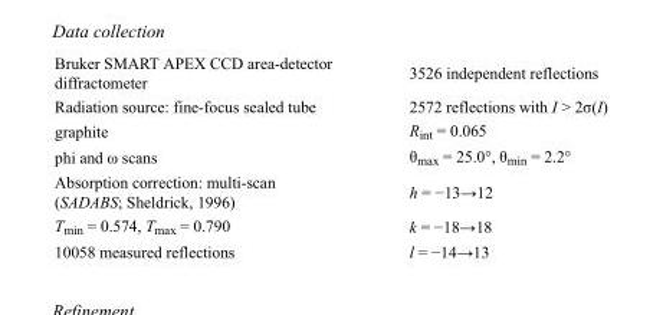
<table><tbody><tr><td>Bruker SMART APEX CCD area-detector diffractometer</td><td>3526 independent reflections</td></tr><tr><td>Radiation source: fine-focus sealed tube</td><td>2572 reflections with I &gt; 2σ(I)</td></tr><tr><td>graphite</td><td>R<sub>int</sub> = 0.065</td></tr><tr><td>phi and ω scans</td><td>θ<sub>max</sub> = 25.0°, θ<sub>min</sub> = 2.2°</td></tr><tr><td>Absorption correction: multi-scan (SADABS; Sheldrick, 1996)</td><td>h = −13→12</td></tr><tr><td>T<sub>min</sub> = 0.574, T<sub>max</sub> = 0.790</td><td>k = −18→18</td></tr><tr><td>10058 measured reflections</td><td>l = −14→13</td></tr></tbody></table>